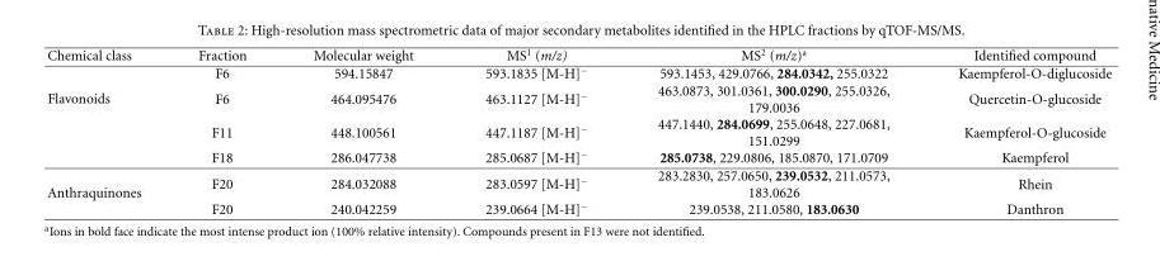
<table><thead><tr><td>Chemical class</td><td>Fraction</td><td>Molecular weight</td><td>MS<sup>1</sup> (m/z)</td><td>MS<sup>2</sup> (m/z)<sup>a</sup></td><td>Identified compound</td></tr></thead><tbody><tr><td rowspan="4">Flavonoids</td><td>F6</td><td>594.15847</td><td>593.1835 [M-H]<sup>−</sup></td><td>593.1453, 429.0766, 284.0342, 255.0322</td><td>Kaempferol-O-diglucoside</td></tr><tr><td>F6</td><td>464.095476</td><td>463.1127 [M-H]<sup>−</sup></td><td>463.0873, 301.0361, 300.0290, 255.0326, 179.0036</td><td>Quercetin-O-glucoside</td></tr><tr><td>F11</td><td>448.100561</td><td>447.1187 [M-H]<sup>−</sup></td><td>447.1440, 284.0699, 255.0648, 227.0681, 151.0299</td><td>Kaempferol-O-glucoside</td></tr><tr><td>F18</td><td>286.047738</td><td>285.0687 [M-H]<sup>−</sup></td><td>285.0738, 229.0806, 185.0870, 171.0709</td><td>Kaempferol</td></tr><tr><td rowspan="2">Anthraquinones</td><td>F20</td><td>284.032088</td><td>283.0597 [M-H]<sup>−</sup></td><td>283.2830, 257.0650, 239.0532, 211.0573, 183.0626</td><td>Rhein</td></tr><tr><td>F20</td><td>240.042259</td><td>239.0664 [M-H]<sup>−</sup></td><td>239.0538, 211.0580, 183.0630</td><td>Danthron</td></tr></tbody></table>